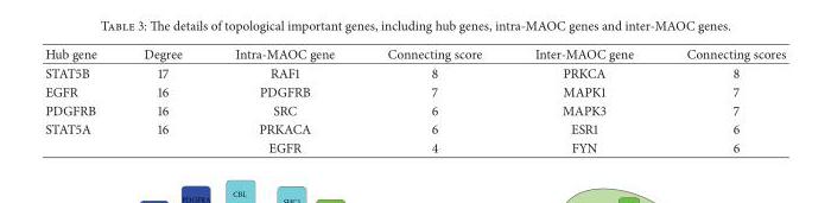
<table><thead><tr><td>Hub gene</td><td>Degree</td><td>Intra-MAOC gene</td><td>Connecting score</td><td>Inter-MAOC gene</td><td>Connecting scores</td></tr></thead><tbody><tr><td>STAT5B</td><td>17</td><td>RAF1</td><td>8</td><td>PRKCA</td><td>8</td></tr><tr><td>EGFR</td><td>16</td><td>PDGFRB</td><td>7</td><td>MAPK1</td><td>7</td></tr><tr><td>PDGFRB</td><td>16</td><td>SRC</td><td>6</td><td>MAPK3</td><td>7</td></tr><tr><td rowspan="2">STAT5A</td><td>16</td><td>PRKACA</td><td>6</td><td>ESR1</td><td>6</td></tr><tr><td></td><td>EGFR</td><td>4</td><td>FYN</td><td>6</td></tr></tbody></table>